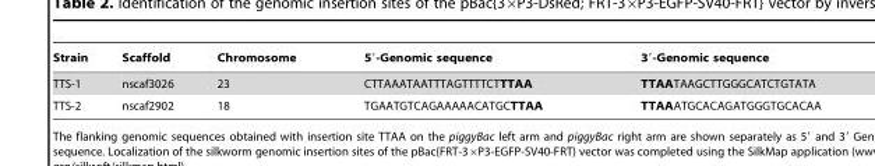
<table><thead><tr><td>Strain</td><td>Scaffold</td><td>Chromosome</td><td>5′-Genomic sequence</td><td>3′-Genomic sequence</td></tr></thead><tbody><tr><td>TTS-1</td><td>nscaf3026</td><td>23</td><td>CTTAAATAATTTAGTTTTCTTTAA</td><td>TTAATAAGCTTGGGCATCTGTATA</td></tr><tr><td>TTS-2</td><td>nscaf2902</td><td>18</td><td>TGAATGTCAGAAAAACATGCTTAA</td><td>TTAAATGCACAGATGGGTGCACAA</td></tr></tbody></table>